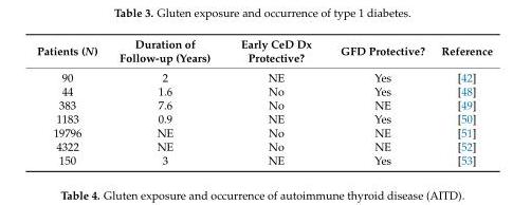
<table><thead><tr><td>Patients (N)</td><td>Duration of Follow-up (Years)</td><td>Early CeD Dx Protective?</td><td>GFD Protective?</td><td>Reference</td></tr></thead><tbody><tr><td>90</td><td>2</td><td>NE</td><td>Yes</td><td>[42]</td></tr><tr><td>44</td><td>1.6</td><td>No</td><td>Yes</td><td>[48]</td></tr><tr><td>383</td><td>7.6</td><td>No</td><td>NE</td><td>[49]</td></tr><tr><td>1183</td><td>0.9</td><td>NE</td><td>Yes</td><td>[50]</td></tr><tr><td>19796</td><td>NE</td><td>No</td><td>NE</td><td>[51]</td></tr><tr><td>4322</td><td>NE</td><td>No</td><td>NE</td><td>[52]</td></tr><tr><td>150</td><td>3</td><td>NE</td><td>Yes</td><td>[53]</td></tr></tbody></table>